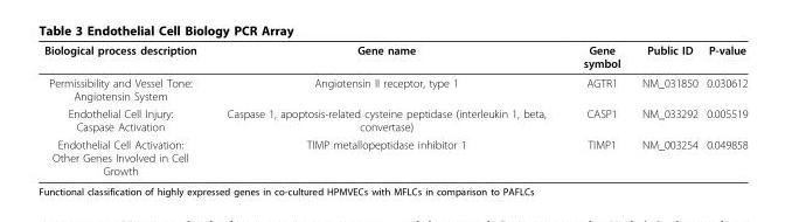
<table><thead><tr><td>Biological process description</td><td>Gene name</td><td>Gene symbol</td><td>Public ID</td><td>P-value</td></tr></thead><tbody><tr><td>Permissibility and Vessel Tone: Angiotensin System</td><td>Angiotensin II receptor, type 1</td><td>AGTR1</td><td>NM_031850</td><td>0.030612</td></tr><tr><td>Endothelial Cell Injury: Caspase Activation</td><td>Caspase 1, apoptosis-related cysteine peptidase (interleukin 1, beta, convertase)</td><td>CASP1</td><td>NM_033292</td><td>0.005519</td></tr><tr><td>Endothelial Cell Activation: Other Genes Involved in Cell Growth</td><td>TIMP metallopeptidase inhibitor 1</td><td>TIMP1</td><td>NM_003254</td><td>0.049858</td></tr></tbody></table>